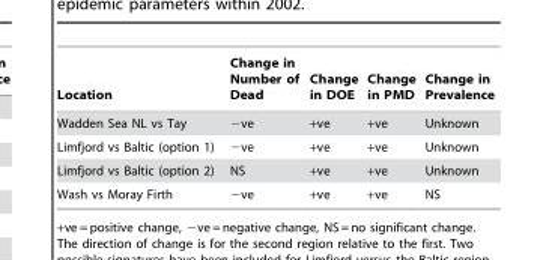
<table><thead><tr><td>Location</td><td>Change in Number of Dead</td><td>Change in DOE</td><td>Change in PMD</td><td>Change in Prevalence</td></tr></thead><tbody><tr><td>Wadden Sea NL vs Tay</td><td>−ve</td><td>+ve</td><td>+ve</td><td>Unknown</td></tr><tr><td>Limfjord vs Baltic (option 1)</td><td>−ve</td><td>+ve</td><td>+ve</td><td>Unknown</td></tr><tr><td>Limfjord vs Baltic (option 2)</td><td>NS</td><td>+ve</td><td>+ve</td><td>Unknown</td></tr><tr><td>Wash vs Moray Firth</td><td>−ve</td><td>+ve</td><td>+ve</td><td>NS</td></tr></tbody></table>